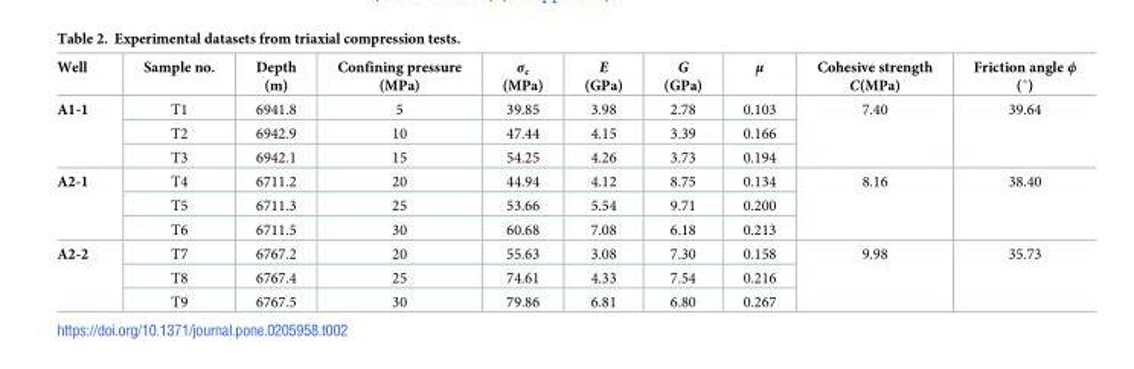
<table><thead><tr><td>Well</td><td>Sample no.</td><td>Depth (m)</td><td>Confining pressure (MPa)</td><td>σ<sub>c</sub> (MPa)</td><td>E (GPa)</td><td>G (GPa)</td><td>μ</td><td>Cohesive strength C(MPa)</td><td>Friction angle ϕ (˚)</td></tr></thead><tbody><tr><td rowspan="3">A1-1</td><td>T1</td><td>6941.8</td><td>5</td><td>39.85</td><td>3.98</td><td>2.78</td><td>0.103</td><td rowspan="3">7.40</td><td rowspan="3">39.64</td></tr><tr><td>T2</td><td>6942.9</td><td>10</td><td>47.44</td><td>4.15</td><td>3.39</td><td>0.166</td></tr><tr><td>T3</td><td>6942.1</td><td>15</td><td>54.25</td><td>4.26</td><td>3.73</td><td>0.194</td></tr><tr><td rowspan="3">A2-1</td><td>T4</td><td>6711.2</td><td>20</td><td>44.94</td><td>4.12</td><td>8.75</td><td>0.134</td><td rowspan="3">8.16</td><td rowspan="3">38.40</td></tr><tr><td>T5</td><td>6711.3</td><td>25</td><td>53.66</td><td>5.54</td><td>9.71</td><td>0.200</td></tr><tr><td>T6</td><td>6711.5</td><td>30</td><td>60.68</td><td>7.08</td><td>6.18</td><td>0.213</td></tr><tr><td rowspan="3">A2-2</td><td>T7</td><td>6767.2</td><td>20</td><td>55.63</td><td>3.08</td><td>7.30</td><td>0.158</td><td rowspan="3">9.98</td><td rowspan="3">35.73</td></tr><tr><td>T8</td><td>6767.4</td><td>25</td><td>74.61</td><td>4.33</td><td>7.54</td><td>0.216</td></tr><tr><td>T9</td><td>6767.5</td><td>30</td><td>79.86</td><td>6.81</td><td>6.80</td><td>0.267</td></tr></tbody></table>